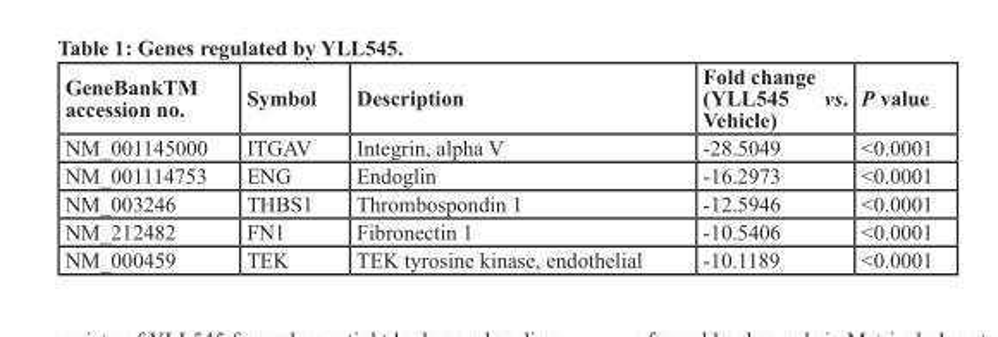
<table><thead><tr><td>GenebanktM accession no.</td><td>symbol</td><td>Description</td><td>Fold change (YLL545 vs. Vehicle)</td><td>P value</td></tr></thead><tbody><tr><td>NM_001145000</td><td>ITGAV</td><td>Integrin, alpha V</td><td>-28.5049</td><td>&lt;0.0001</td></tr><tr><td>NM_001114753</td><td>ENG</td><td>Endoglin</td><td>-16.2973</td><td>&lt;0.0001</td></tr><tr><td>NM_003246</td><td>THBS1</td><td>Thrombospondin 1</td><td>-12.5946</td><td>&lt;0.0001</td></tr><tr><td>NM_212482</td><td>FN1</td><td>Fibronectin 1</td><td>-10.5406</td><td>&lt;0.0001</td></tr><tr><td>NM_000459</td><td>TEK</td><td>TEK tyrosine kinase, endothelial</td><td>-10.1189</td><td>&lt;0.0001</td></tr></tbody></table>